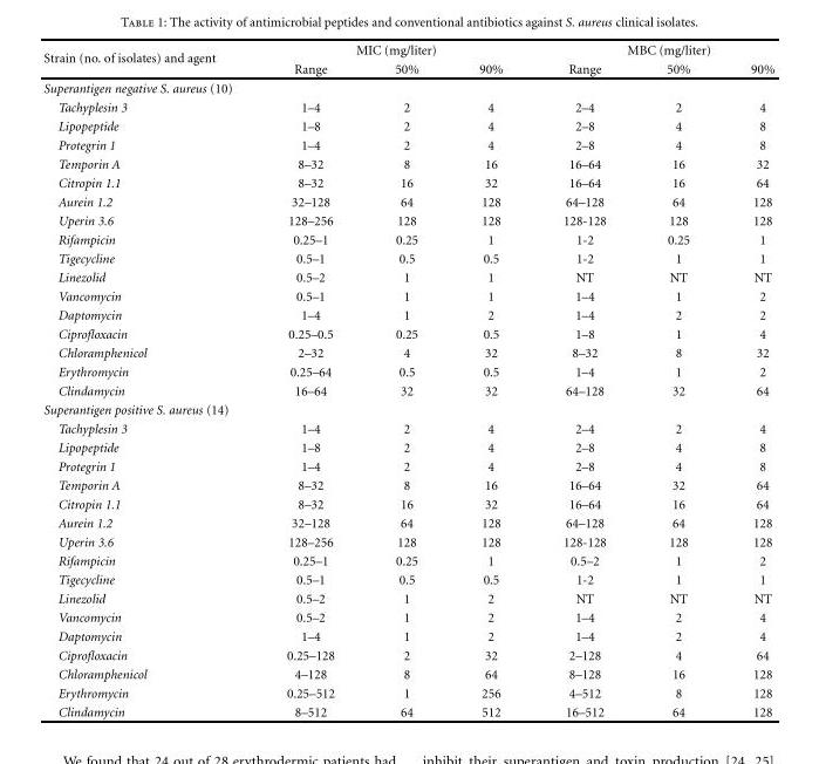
<table><thead><tr><td rowspan="2">Strain (no. of isolates) and agent</td><td colspan="3">MIC (mg/liter)</td><td colspan="3">MBC (mg/liter)</td></tr><tr><td>Range</td><td>50%</td><td>90%</td><td>Range</td><td>50%</td><td>90%</td></tr></thead><tbody><tr><td colspan="7">Superantigen negative S. aureus (10)</td></tr><tr><td>Tachyplesin 3</td><td>1–4</td><td>2</td><td>4</td><td>2–4</td><td>2</td><td>4</td></tr><tr><td>Lipopeptide</td><td>1–8</td><td>2</td><td>4</td><td>2–8</td><td>4</td><td>8</td></tr><tr><td>Protegrin 1</td><td>1–4</td><td>2</td><td>4</td><td>2–8</td><td>4</td><td>8</td></tr><tr><td>Temporin A</td><td>8–32</td><td>8</td><td>16</td><td>16–64</td><td>16</td><td>32</td></tr><tr><td>Citropin 1.1</td><td>8–32</td><td>16</td><td>32</td><td>16–64</td><td>16</td><td>64</td></tr><tr><td>Aurein 1.2</td><td>32–128</td><td>64</td><td>128</td><td>64–128</td><td>64</td><td>128</td></tr><tr><td>Uperin 3.6</td><td>128–256</td><td>128</td><td>128</td><td>128-128</td><td>128</td><td>128</td></tr><tr><td>Rifampicin</td><td>0.25–1</td><td>0.25</td><td>1</td><td>1-2</td><td>0.25</td><td>1</td></tr><tr><td>Tigecycline</td><td>0.5–1</td><td>0.5</td><td>0.5</td><td>1-2</td><td>1</td><td>1</td></tr><tr><td>Linezolid</td><td>0.5–2</td><td>1</td><td>1</td><td>NT</td><td>NT</td><td>NT</td></tr><tr><td>Vancomycin</td><td>0.5–1</td><td>1</td><td>1</td><td>1–4</td><td>1</td><td>2</td></tr><tr><td>Daptomycin</td><td>1–4</td><td>1</td><td>2</td><td>1–4</td><td>2</td><td>2</td></tr><tr><td>Ciprofloxacin</td><td>0.25–0.5</td><td>0.25</td><td>0.5</td><td>1–8</td><td>1</td><td>4</td></tr><tr><td>Chloramphenicol</td><td>2–32</td><td>4</td><td>32</td><td>8–32</td><td>8</td><td>32</td></tr><tr><td>Erythromycin</td><td>0.25–64</td><td>0.5</td><td>0.5</td><td>1–4</td><td>1</td><td>2</td></tr><tr><td>Clindamycin</td><td>16–64</td><td>32</td><td>32</td><td>64–128</td><td>32</td><td>64</td></tr><tr><td colspan="7">Superantigen positive S. aureus (14)</td></tr><tr><td>Tachyplesin 3</td><td>1–4</td><td>2</td><td>4</td><td>2–4</td><td>2</td><td>4</td></tr><tr><td>Lipopeptide</td><td>1–8</td><td>2</td><td>4</td><td>2–8</td><td>4</td><td>8</td></tr><tr><td>Protegrin 1</td><td>1–4</td><td>2</td><td>4</td><td>2–8</td><td>4</td><td>8</td></tr><tr><td>Temporin A</td><td>8–32</td><td>8</td><td>16</td><td>16–64</td><td>32</td><td>64</td></tr><tr><td>Citropin 1.1</td><td>8–32</td><td>16</td><td>32</td><td>16–64</td><td>16</td><td>64</td></tr><tr><td>Aurein 1.2</td><td>32–128</td><td>64</td><td>128</td><td>64–128</td><td>64</td><td>128</td></tr><tr><td>Uperin 3.6</td><td>128–256</td><td>128</td><td>128</td><td>128-128</td><td>128</td><td>128</td></tr><tr><td>Rifampicin</td><td>0.25–1</td><td>0.25</td><td>1</td><td>0.5–2</td><td>1</td><td>2</td></tr><tr><td>Tigecycline</td><td>0.5–1</td><td>0.5</td><td>0.5</td><td>1-2</td><td>1</td><td>1</td></tr><tr><td>Linezolid</td><td>0.5–2</td><td>1</td><td>2</td><td>NT</td><td>NT</td><td>NT</td></tr><tr><td>Vancomycin</td><td>0.5–2</td><td>1</td><td>2</td><td>1–4</td><td>2</td><td>4</td></tr><tr><td>Daptomycin</td><td>1–4</td><td>1</td><td>2</td><td>1–4</td><td>2</td><td>4</td></tr><tr><td>Ciprofloxacin</td><td>0.25–128</td><td>2</td><td>32</td><td>2–128</td><td>4</td><td>64</td></tr><tr><td>Chloramphenicol</td><td>4–128</td><td>8</td><td>64</td><td>8–128</td><td>16</td><td>128</td></tr><tr><td>Erythromycin</td><td>0.25–512</td><td>1</td><td>256</td><td>4–512</td><td>8</td><td>128</td></tr><tr><td>Clindamycin</td><td>8–512</td><td>64</td><td>512</td><td>16–512</td><td>64</td><td>128</td></tr></tbody></table>